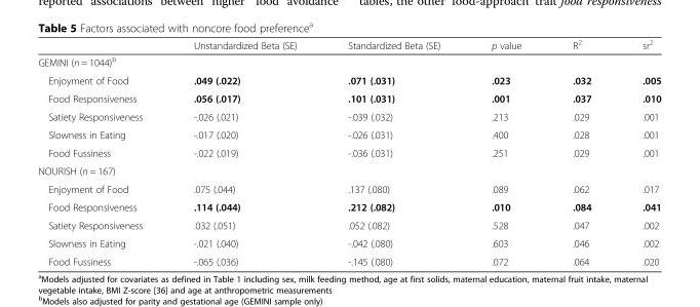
<table><thead><tr><td></td><td>Unstandardized Beta (SE)</td><td>Standardized Beta (SE)</td><td>p value</td><td>R<sup>2</sup></td><td>sr<sup>2</sup></td></tr></thead><tbody><tr><td colspan="6">GEMINI (n = 1044)<sup>b</sup></td></tr><tr><td>Enjoyment of Food</td><td>.049 (.022)</td><td>.071 (.031)</td><td>.023</td><td>.032</td><td>.005</td></tr><tr><td>Food Responsiveness</td><td>.056 (.017)</td><td>.101 (.031)</td><td>.001</td><td>.037</td><td>.010</td></tr><tr><td>Satiety Responsiveness</td><td>-.026 (.021)</td><td>-.039 (.032)</td><td>.213</td><td>.029</td><td>.001</td></tr><tr><td>Slowness in Eating</td><td>-.017 (.020)</td><td>-.026 (.031)</td><td>.400</td><td>.028</td><td>.001</td></tr><tr><td>Food Fussiness</td><td>-.022 (.019)</td><td>-.036 (.031)</td><td>.251</td><td>.029</td><td>.001</td></tr><tr><td colspan="6">NOURISH (n = 167)</td></tr><tr><td>Enjoyment of Food</td><td>.075 (.044)</td><td>.137 (.080)</td><td>.089</td><td>.062</td><td>.017</td></tr><tr><td>Food Responsiveness</td><td>.114 (.044)</td><td>.212 (.082)</td><td>.010</td><td>.084</td><td>.041</td></tr><tr><td>Satiety Responsiveness</td><td>.032 (.051)</td><td>.052 (.082)</td><td>.528</td><td>.047</td><td>.002</td></tr><tr><td>Slowness in Eating</td><td>-.021 (.040)</td><td>-.042 (.080)</td><td>.603</td><td>.046</td><td>.002</td></tr><tr><td>Food Fussiness</td><td>-.065 (.036)</td><td>-.145 (.080)</td><td>.072</td><td>.064</td><td>.020</td></tr></tbody></table>